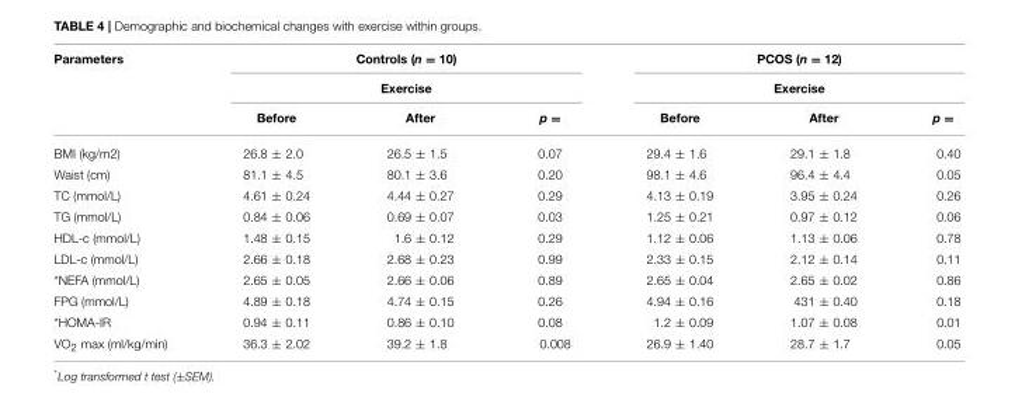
<table><thead><tr><td rowspan="3">Parameters</td><td rowspan="2" colspan="3">Controls (n = 10) Exercise</td><td rowspan="2" colspan="3">PCOS (n = 12) Exercise</td></tr><tr></tr><tr><td>Before</td><td>After</td><td>p =</td><td>Before</td><td>After</td><td>p =</td></tr></thead><tbody><tr><td>BMI (kg/m2)</td><td>26.8 ± 2.0</td><td>26.5 ± 1.5</td><td>0.07</td><td>29.4 ± 1.6</td><td>29.1 ± 1.8</td><td>0.40</td></tr><tr><td>Waist (cm)</td><td>81.1 ± 4.5</td><td>80.1 ± 3.6</td><td>0.20</td><td>98.1 ± 4.6</td><td>96.4 ± 4.4</td><td>0.05</td></tr><tr><td>TC (mmol/L)</td><td>4.61 ± 0.24</td><td>4.44 ± 0.27</td><td>0.29</td><td>4.13 ± 0.19</td><td>3.95 ± 0.24</td><td>0.26</td></tr><tr><td>TG (mmol/L)</td><td>0.84 ± 0.06</td><td>0.69 ± 0.07</td><td>0.03</td><td>1.25 ± 0.21</td><td>0.97 ± 0.12</td><td>0.06</td></tr><tr><td>HDL-c (mmol/L)</td><td>1.48 ± 0.15</td><td>1.6 ± 0.12</td><td>0.29</td><td>1.12 ± 0.06</td><td>1.13 ± 0.06</td><td>0.78</td></tr><tr><td>LDL-c (mmol/L)</td><td>2.66 ± 0.18</td><td>2.68 ± 0.23</td><td>0.99</td><td>2.33 ± 0.15</td><td>2.12 ± 0.14</td><td>0.11</td></tr><tr><td>*NEFA (mmol/L)</td><td>2.65 ± 0.05</td><td>2.66 ± 0.06</td><td>0.89</td><td>2.65 ± 0.04</td><td>2.65 ± 0.02</td><td>0.86</td></tr><tr><td>FPG (mmol/L)</td><td>4.89 ± 0.18</td><td>4.74 ± 0.15</td><td>0.26</td><td>4.94 ± 0.16</td><td>431 ± 0.40</td><td>0.18</td></tr><tr><td>*HOMA-IR</td><td>0.94 ± 0.11</td><td>0.86 ± 0.10</td><td>0.08</td><td>1.2 ± 0.09</td><td>1.07 ± 0.08</td><td>0.01</td></tr><tr><td>VO<sub>2</sub> max (ml/kg/min)</td><td>36.3 ± 2.02</td><td>39.2 ± 1.8</td><td>0.008</td><td>26.9 ± 1.40</td><td>28.7 ± 1.7</td><td>0.05</td></tr></tbody></table>